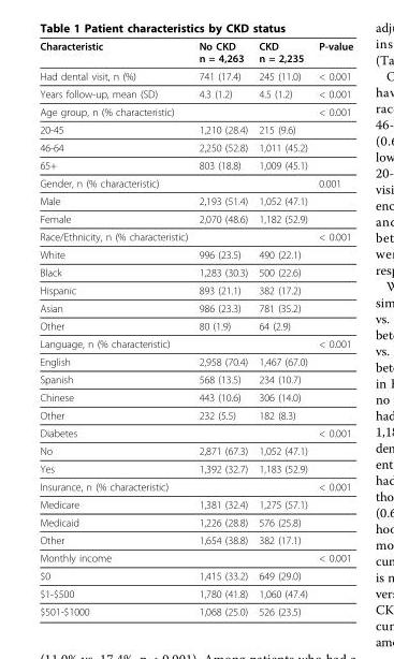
<table><thead><tr><td>Characteristic</td><td>No CKD n = 4,263</td><td>CKD n = 2,235</td><td>P-value</td></tr></thead><tbody><tr><td>Had dental visit, n (%)</td><td>741 (17.4)</td><td>245 (11.0)</td><td>&lt; 0.001</td></tr><tr><td>Years follow-up, mean (SD)</td><td>4.3 (1.2)</td><td>4.5 (1.2)</td><td>&lt; 0.001</td></tr><tr><td>Age group, n (% characteristic)</td><td></td><td></td><td>&lt; 0.001</td></tr><tr><td>20-45</td><td>1,210 (28.4)</td><td>215 (9.6)</td><td></td></tr><tr><td>46-64</td><td>2,250 (52.8)</td><td>1,011 (45.2)</td><td></td></tr><tr><td>65+</td><td>803 (18.8)</td><td>1,009 (45.1)</td><td></td></tr><tr><td>Gender, n (% characteristic)</td><td></td><td></td><td>0.001</td></tr><tr><td>Male</td><td>2,193 (51.4)</td><td>1,052 (47.1)</td><td></td></tr><tr><td>Female</td><td>2,070 (48.6)</td><td>1,182 (52.9)</td><td></td></tr><tr><td>Race/Ethnicity, n (% characteristic)</td><td></td><td></td><td>&lt; 0.001</td></tr><tr><td>White</td><td>996 (23.5)</td><td>490 (22.1)</td><td></td></tr><tr><td>Black</td><td>1,283 (30.3)</td><td>500 (22.6)</td><td></td></tr><tr><td>Hispanic</td><td>893 (21.1)</td><td>382 (17.2)</td><td></td></tr><tr><td>Asian</td><td>986 (23.3)</td><td>781 (35.2)</td><td></td></tr><tr><td>Other</td><td>80 (1.9)</td><td>64 (2.9)</td><td></td></tr><tr><td>Language, n (% characteristic)</td><td></td><td></td><td>&lt; 0.001</td></tr><tr><td>English</td><td>2,958 (70.4)</td><td>1,467 (67.0)</td><td></td></tr><tr><td>Spanish</td><td>568 (13.5)</td><td>234 (10.7)</td><td></td></tr><tr><td>Chinese</td><td>443 (10.6)</td><td>306 (14.0)</td><td></td></tr><tr><td>Other</td><td>232 (5.5)</td><td>182 (8.3)</td><td></td></tr><tr><td>Diabetes</td><td></td><td></td><td>&lt; 0.001</td></tr><tr><td>No</td><td>2,871 (67.3)</td><td>1,052 (47.1)</td><td></td></tr><tr><td>Yes</td><td>1,392 (32.7)</td><td>1,183 (52.9)</td><td></td></tr><tr><td>Insurance, n (% characteristic)</td><td></td><td></td><td>&lt; 0.001</td></tr><tr><td>Medicare</td><td>1,381 (32.4)</td><td>1,275 (57.1)</td><td></td></tr><tr><td>Medicaid</td><td>1,226 (28.8)</td><td>576 (25.8)</td><td></td></tr><tr><td>Other</td><td>1,654 (38.8)</td><td>382 (17.1)</td><td></td></tr><tr><td>Monthly income</td><td></td><td></td><td>&lt; 0.001</td></tr><tr><td>$0</td><td>1,415 (33.2)</td><td>649 (29.0)</td><td></td></tr><tr><td>$1-$500</td><td>1,780 (41.8)</td><td>1,060 (47.4)</td><td></td></tr><tr><td>$501-$1000</td><td>1,068 (25.0)</td><td>526 (23.5)</td><td></td></tr></tbody></table>